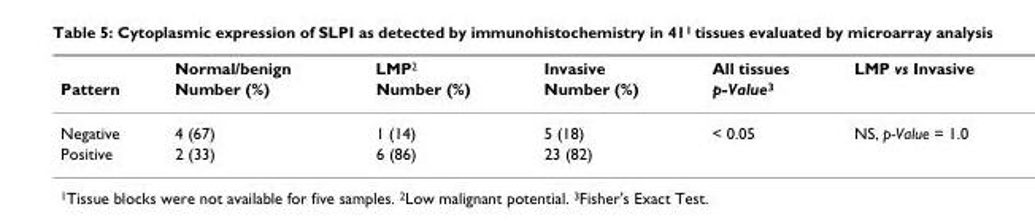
<table><thead><tr><td rowspan="2">Pattern</td><td rowspan="2">Normal/benign Number (%)</td><td rowspan="2">LMP<sup>2</sup> Number (%)</td><td rowspan="2">Invasive Number (%)</td><td rowspan="2">All tissues p-Value<sup>3</sup></td><td rowspan="2">LMP vs Invasive</td></tr><tr></tr></thead><tbody><tr><td>Negative</td><td>4 (67)</td><td>1 (14)</td><td>5 (18)</td><td>&lt; 0.05</td><td>NS, p-Value = 1.0</td></tr><tr><td>Positive</td><td>2 (33)</td><td>6 (86)</td><td>23 (82)</td><td></td><td></td></tr></tbody></table>